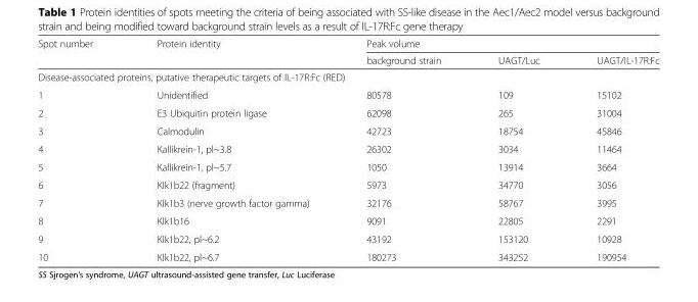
<table><thead><tr><td rowspan="2">Spot number</td><td rowspan="2">Protein identity</td><td colspan="3">Peak volume</td></tr><tr><td>background strain</td><td>UAGT/Luc</td><td>UAGT/IL-17R:Fc</td></tr></thead><tbody><tr><td colspan="5">Disease-associated proteins, putative therapeutic targets of IL-17R:Fc (RED)</td></tr><tr><td>1</td><td>Unidentified</td><td>80578</td><td>109</td><td>15102</td></tr><tr><td>2</td><td>E3 Ubiquitin protein ligase</td><td>62098</td><td>265</td><td>31004</td></tr><tr><td>3</td><td>Calmodulin</td><td>42723</td><td>18754</td><td>45846</td></tr><tr><td>4</td><td>Kallikrein-1, pl~3.8</td><td>26302</td><td>3034</td><td>11464</td></tr><tr><td>5</td><td>Kallikrein-1, pl~5.7</td><td>1050</td><td>13914</td><td>3664</td></tr><tr><td>6</td><td>Klk1b22 (fragment)</td><td>5973</td><td>34770</td><td>3056</td></tr><tr><td>7</td><td>Klk1b3 (nerve growth factor gamma)</td><td>32176</td><td>58767</td><td>3995</td></tr><tr><td>8</td><td>Klk1b16</td><td>9091</td><td>22805</td><td>2291</td></tr><tr><td>9</td><td>Klk1b22, pl~6.2</td><td>43192</td><td>153120</td><td>10928</td></tr><tr><td>10</td><td>Klk1b22, pl~6.7</td><td>180273</td><td>343252</td><td>190954</td></tr></tbody></table>